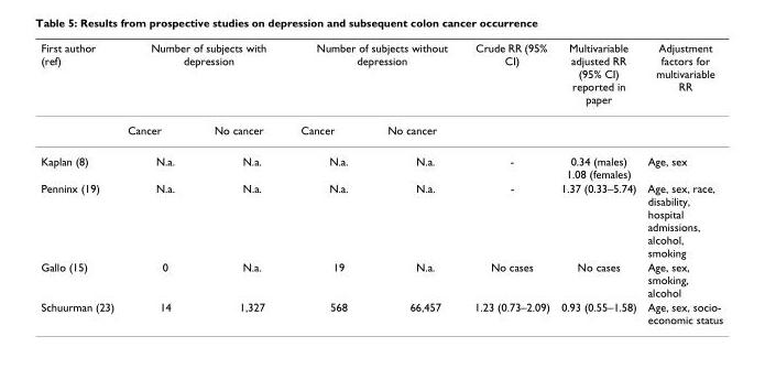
<table><thead><tr><td rowspan="2">First author (ref)</td><td colspan="2">Number of subjects with depression</td><td colspan="2">Number of subjects without depression</td><td rowspan="2">Crude RR (95% CI)</td><td rowspan="2">Multivariable adjusted RR (95% CI) reported in paper</td><td rowspan="2">Adjustment factors for multivariable RR</td></tr><tr><td>Cancer</td><td>No cancer</td><td>Cancer</td><td>No cancer</td></tr></thead><tbody><tr><td>Kaplan (8)</td><td>N.a.</td><td>N.a.</td><td>N.a.</td><td>N.a.</td><td>-</td><td>0.34 (males) 1.08 (females)</td><td>Age, sex</td></tr><tr><td>Penninx (19)</td><td>N.a.</td><td>N.a.</td><td>N.a.</td><td>N.a.</td><td>-</td><td>1.37 (0.33–5.74)</td><td>Age, sex, race, disability, hospital admissions, alcohol, smoking</td></tr><tr><td>Gallo (15)</td><td>0</td><td>N.a.</td><td>19</td><td>N.a.</td><td>No cases</td><td>No cases</td><td>Age, sex, smoking, alcohol</td></tr><tr><td>Schuurman (23)</td><td>14</td><td>1,327</td><td>568</td><td>66,457</td><td>1.23 (0.73–2.09)</td><td>0.93 (0.55–1.58)</td><td>Age, sex, socio- economic status</td></tr></tbody></table>